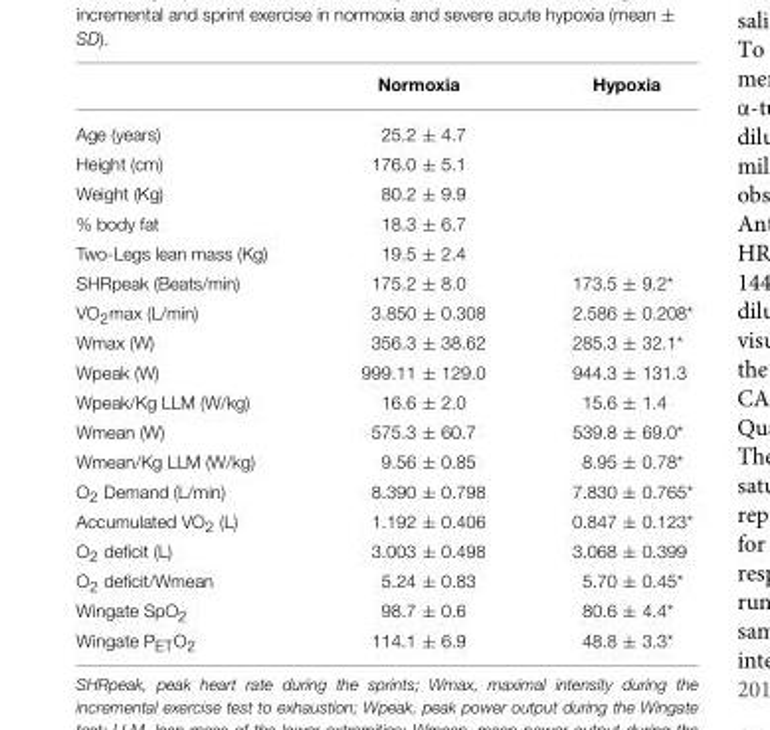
<table><thead><tr><td></td><td>Normoxia</td><td>Hypoxia</td></tr></thead><tbody><tr><td>Age (years)</td><td>25.2 ± 4.7</td><td></td></tr><tr><td>Height (cm)</td><td>176.0 ± 5.1</td><td></td></tr><tr><td>Weight (Kg)</td><td>80.2 ± 9.9</td><td></td></tr><tr><td>% body fat</td><td>18.3 ± 6.7</td><td></td></tr><tr><td>Two-Legs lean mass (Kg)</td><td>19.5 ± 2.4</td><td></td></tr><tr><td>SHRpeak (Beats/min)</td><td>175.2 ± 8.0</td><td>173.5 ± 9.2*</td></tr><tr><td>VO<sub>2</sub>max (L/min)</td><td>3.850 ± 0.308</td><td>2.586 ± 0.208*</td></tr><tr><td>Wmax (W)</td><td>356.3 ± 38.62</td><td>285.3 ± 32.1*</td></tr><tr><td>Wpeak (W)</td><td>999.11 ± 129.0</td><td>944.3 ± 131.3</td></tr><tr><td>Wpeak/Kg LLM (W/kg)</td><td>16.6 ± 2.0</td><td>15.6 ± 1.4</td></tr><tr><td>Wmean (W)</td><td>575.3 ± 60.7</td><td>539.8 ± 69.0*</td></tr><tr><td>Wmean/Kg LLM (W/kg)</td><td>9.56 ± 0.85</td><td>8.95 ± 0.78*</td></tr><tr><td>O<sub>2</sub> Demand (L/min)</td><td>8.390 ± 0.798</td><td>7.830 ± 0.765*</td></tr><tr><td>Accumulated VO<sub>2</sub> (L)</td><td>1.192 ± 0.406</td><td>0.847 ± 0.123*</td></tr><tr><td>O<sub>2</sub> deficit (L)</td><td>3.003 ± 0.498</td><td>3.068 ± 0.399</td></tr><tr><td>O<sub>2</sub> deficit/Wmean</td><td>5.24 ± 0.83</td><td>5.70 ± 0.45*</td></tr><tr><td>Wingate SpO<sub>2</sub></td><td>98.7 ± 0.6</td><td>80.6 ± 4.4*</td></tr><tr><td>Wingate P<sub>ET</sub>O<sub>2</sub></td><td>114.1 ± 6.9</td><td>48.8 ± 3.3*</td></tr></tbody></table>